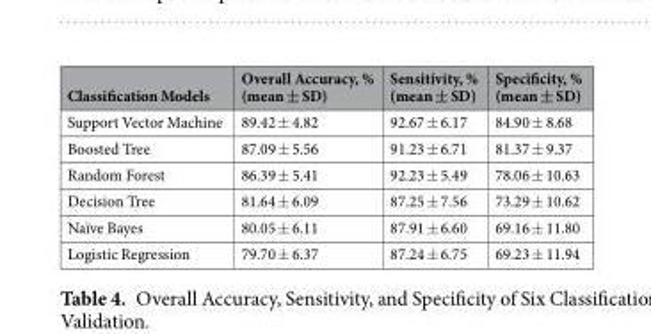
<table><thead><tr><td>Classification Models</td><td>Overall Accuracy, % (mean ± SD)</td><td>Sensitivity, % (mean ± SD)</td><td>Specificity, % (mean ± SD)</td></tr></thead><tbody><tr><td>Support Vector Machine</td><td>89.42 ± 4.82</td><td>92.67 ± 6.17</td><td>84.90 ± 8.68</td></tr><tr><td>Boosted Tree</td><td>87.09 ± 5.56</td><td>91.23 ± 6.71</td><td>81.37 ± 9.37</td></tr><tr><td>Random Forest</td><td>86.39 ± 5.41</td><td>92.23 ± 5.49</td><td>78.06 ± 10.63</td></tr><tr><td>Decision Tree</td><td>81.64 ± 6.09</td><td>87.25 ± 7.56</td><td>73.29 ± 10.62</td></tr><tr><td>Naïve Bayes</td><td>80.05 ± 6.11</td><td>87.91 ± 6.60</td><td>69.16 ± 11.80</td></tr><tr><td>Logistic Regression</td><td>79.70 ± 6.37</td><td>87.24 ± 6.75</td><td>69.23 ± 11.94</td></tr></tbody></table>